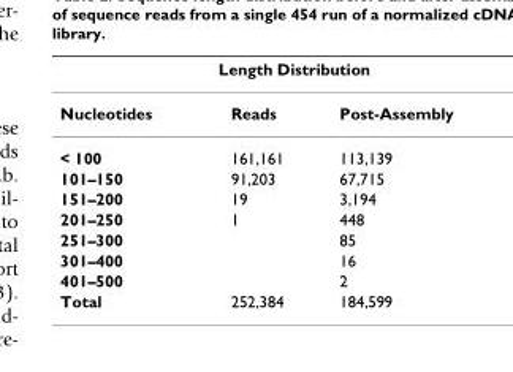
<table><thead><tr><td colspan="3">Length Distribution</td></tr><tr><td>Nucleotides</td><td>Reads</td><td>Post-Assembly</td></tr></thead><tbody><tr><td>&lt; 100</td><td>161,161</td><td>113,139</td></tr><tr><td>101–150</td><td>91,203</td><td>67,715</td></tr><tr><td>151–200</td><td>19</td><td>3,194</td></tr><tr><td>201–250</td><td>1</td><td>448</td></tr><tr><td>251–300</td><td></td><td>85</td></tr><tr><td>301–400</td><td></td><td>16</td></tr><tr><td>401–500</td><td></td><td>2</td></tr><tr><td>Total</td><td>252,384</td><td>184,599</td></tr></tbody></table>